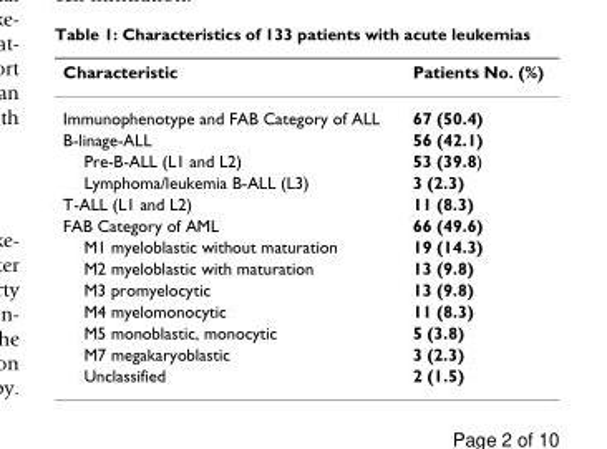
<table><thead><tr><td>Characteristic</td><td>Patients No. (%)</td></tr></thead><tbody><tr><td>Immunophenotype and FAB Category of ALL</td><td>67 (50.4)</td></tr><tr><td>B-linage-ALL</td><td>56 (42.1)</td></tr><tr><td>Pre-B-ALL (L1 and L2)</td><td>53 (39.8)</td></tr><tr><td>Lymphoma/leukemia B-ALL (L3)</td><td>3 (2.3)</td></tr><tr><td>T-ALL (L1 and L2)</td><td>11 (8.3)</td></tr><tr><td>FAB Category of AML</td><td>66 (49.6)</td></tr><tr><td>M1 myeloblastic without maturation</td><td>19 (14.3)</td></tr><tr><td>M2 myeloblastic with maturation</td><td>13 (9.8)</td></tr><tr><td>M3 promyelocytic</td><td>13 (9.8)</td></tr><tr><td>M4 myelomonocytic</td><td>11 (8.3)</td></tr><tr><td>M5 monoblastic, monocytic</td><td>5 (3.8)</td></tr><tr><td>M7 megakaryoblastic</td><td>3 (2.3)</td></tr><tr><td>Unclassified</td><td>2 (1.5)</td></tr></tbody></table>